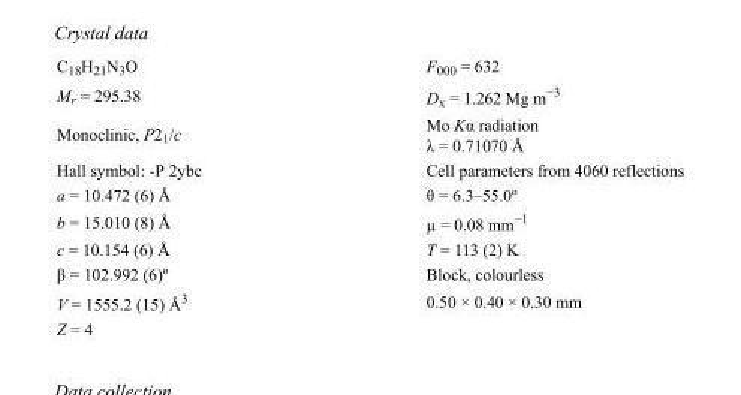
<table><tbody><tr><td>C<sub>18</sub>H<sub>21</sub>N<sub>3</sub>O</td><td>F000 = 632</td></tr><tr><td>M<sub>r</sub> = 295.38</td><td>D<sub>x</sub> = 1.262 Mg m<sup>−3</sup></td></tr><tr><td>Monoclinic, P2<sub>1</sub>/c</td><td>Mo Kα radiation λ = 0.71070 Å</td></tr><tr><td>Hall symbol: -P 2ybc</td><td>Cell parameters from 4060 reflections</td></tr><tr><td>a = 10.472 (6) Å</td><td>θ = 6.3–55.0º</td></tr><tr><td>b = 15.010 (8) Å</td><td>µ = 0.08 mm<sup>−1</sup></td></tr><tr><td>c = 10.154 (6) Å</td><td>T = 113 (2) K</td></tr><tr><td>β = 102.992 (6)º</td><td>Block, colourless</td></tr><tr><td>V = 1555.2 (15) Å<sup>3</sup></td><td>0.50 × 0.40 × 0.30 mm</td></tr><tr><td>Z = 4</td><td></td></tr></tbody></table>